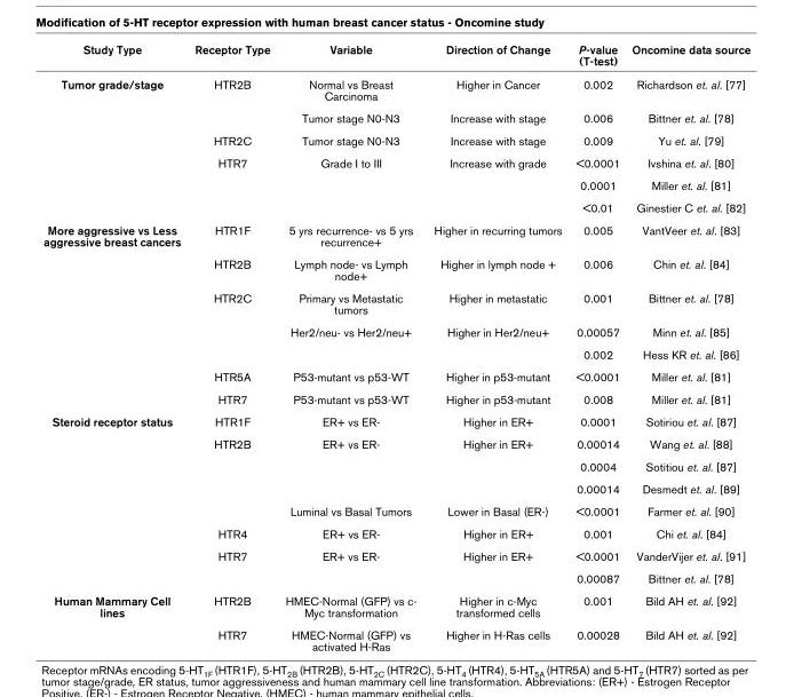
<table><thead><tr><td>Study Type</td><td>Receptor Type</td><td>Variable</td><td>Direction of Change</td><td>P-value (T-test)</td><td>Oncomine data source</td></tr></thead><tbody><tr><td rowspan="6">Tumor grade/stage</td><td>HTR2B</td><td>Normal vs Breast Carcinoma</td><td>Higher in Cancer</td><td>0.002</td><td>Richardson et. al. [77]</td></tr><tr><td></td><td>Tumor stage N0-N3</td><td>Increase with stage</td><td>0.006</td><td>Bittner et. al. [78]</td></tr><tr><td>HTR2C</td><td>Tumor stage N0-N3</td><td>Increase with stage</td><td>0.009</td><td>Yu et. al. [79]</td></tr><tr><td>HTR7</td><td>Grade I to III</td><td>Increase with grade</td><td>&lt;0.0001</td><td>Ivshina et. al. [80]</td></tr><tr><td></td><td></td><td></td><td>0.0001</td><td>Miller et. al. [81]</td></tr><tr><td></td><td></td><td></td><td>&lt;0.01</td><td>Ginestier C et. al. [82]</td></tr><tr><td rowspan="7">More aggressive vs Less aggressive breast cancers</td><td>HTR1F</td><td>5 yrs recurrence- vs 5 yrs recurrence+</td><td>Higher in recurring tumors</td><td>0.005</td><td>VantVeer et. al. [83]</td></tr><tr><td>HTR2B</td><td>Lymph node- vs Lymph node+</td><td>Higher in lymph node +</td><td>0.006</td><td>Chin et. al. [84]</td></tr><tr><td>HTR2C</td><td>Primary vs Metastatic tumors</td><td>Higher in metastatic</td><td>0.001</td><td>Bittner et. al. [78]</td></tr><tr><td></td><td>Her2/neu- vs Her2/neu+</td><td>Higher in Her2/neu+</td><td>0.00057</td><td>Minn et. al. [85]</td></tr><tr><td></td><td></td><td></td><td>0.002</td><td>Hess KR et. al. [86]</td></tr><tr><td>HTR5A</td><td>P53-mutant vs p53-WT</td><td>Higher in p53-mutant</td><td>&lt;0.0001</td><td>Miller et. al. [81]</td></tr><tr><td>HTR7</td><td>P53-mutant vs p53-WT</td><td>Higher in p53-mutant</td><td>0.008</td><td>Miller et. al. [81]</td></tr><tr><td rowspan="8">Steroid receptor status</td><td>HTR1F</td><td>ER+ vs ER-</td><td>Higher in ER+</td><td>0.0001</td><td>Sotiriou et. al. [87]</td></tr><tr><td>HTR2B</td><td>ER+ vs ER-</td><td>Higher in ER+</td><td>0.00014</td><td>Wang et. al. [88]</td></tr><tr><td></td><td></td><td></td><td>0.0004</td><td>Sotitiou et. al. [87]</td></tr><tr><td></td><td></td><td></td><td>0.00014</td><td>Desmedt et. al. [89]</td></tr><tr><td></td><td>Luminal vs Basal Tumors</td><td>Lower in Basal (ER-)</td><td>&lt;0.0001</td><td>Farmer et. al. [90]</td></tr><tr><td>HTR4</td><td>ER+ vs ER-</td><td>Higher in ER+</td><td>0.001</td><td>Chi et. al. [84]</td></tr><tr><td>HTR7</td><td>ER+ vs ER-</td><td>Higher in ER+</td><td>&lt;0.0001</td><td>VanderVijer et. al. [91]</td></tr><tr><td></td><td></td><td></td><td>0.00087</td><td>Bittner et. al. [78]</td></tr><tr><td rowspan="2">Human Mammary Cell lines</td><td>HTR2B</td><td>HMEC-Normal (GFP) vs c- Myc transformation</td><td>Higher in c-Myc transformed cells</td><td>0.001</td><td>Bild AH et. al. [92]</td></tr><tr><td>HTR7</td><td>HMEC-Normal (GFP) vs activated H-Ras</td><td>Higher in H-Ras cells</td><td>0.00028</td><td>Bild AH et. al. [92]</td></tr></tbody></table>